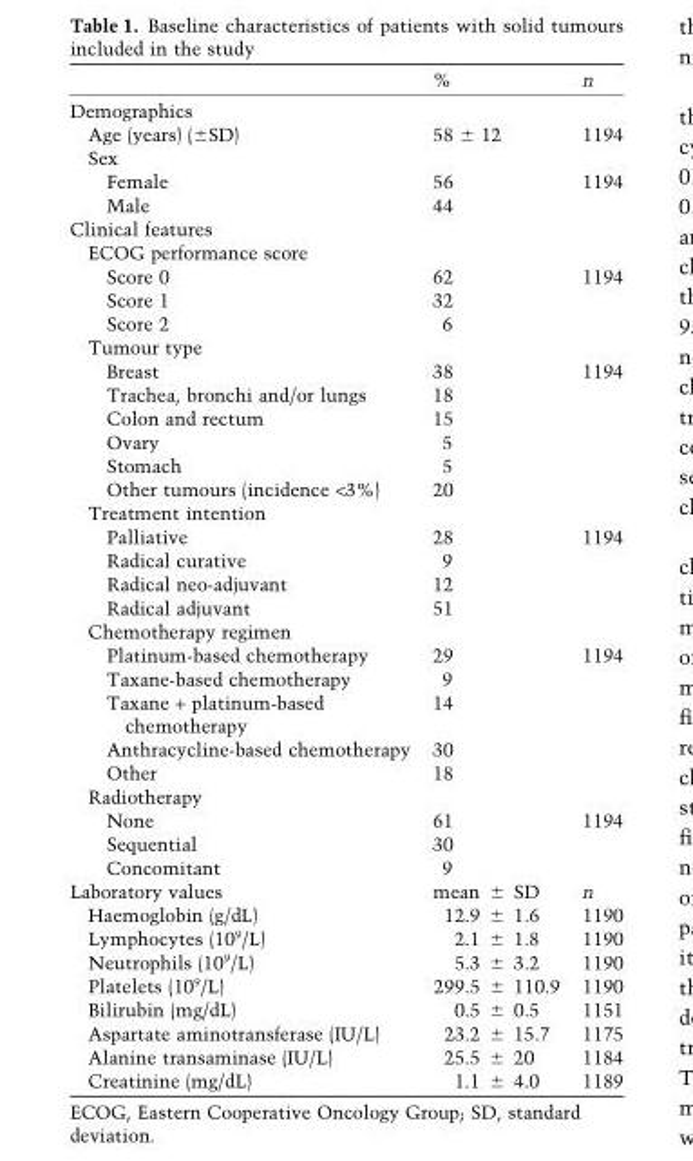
<table><thead><tr><td></td><td>%</td><td>n</td></tr></thead><tbody><tr><td colspan="3">Demographics</td></tr><tr><td>Age (years) (±SD)</td><td>58 ± 12</td><td>1194</td></tr><tr><td colspan="3">Sex</td></tr><tr><td>Female</td><td>56</td><td>1194</td></tr><tr><td>Male</td><td>44</td><td></td></tr><tr><td colspan="3">Clinical features</td></tr><tr><td colspan="3">ECOG performance score</td></tr><tr><td>Score 0</td><td>62</td><td>1194</td></tr><tr><td>Score 1</td><td>32</td><td></td></tr><tr><td>Score 2</td><td>6</td><td></td></tr><tr><td colspan="3">Tumour type</td></tr><tr><td>Breast</td><td>38</td><td>1194</td></tr><tr><td>Trachea, bronchi and/or lungs</td><td>18</td><td></td></tr><tr><td>Colon and rectum</td><td>15</td><td></td></tr><tr><td>Ovary</td><td>5</td><td></td></tr><tr><td>Stomach</td><td>5</td><td></td></tr><tr><td>Other tumours (incidence &lt;3%)</td><td>20</td><td></td></tr><tr><td colspan="3">Treatment intention</td></tr><tr><td>Palliative</td><td>28</td><td>1194</td></tr><tr><td>Radical curative</td><td>9</td><td></td></tr><tr><td>Radical neo-adjuvant</td><td>12</td><td></td></tr><tr><td>Radical adjuvant</td><td>51</td><td></td></tr><tr><td colspan="3">Chemotherapy regimen</td></tr><tr><td>Platinum-based chemotherapy</td><td>29</td><td>1194</td></tr><tr><td>Taxane-based chemotherapy</td><td>9</td><td></td></tr><tr><td>Taxane + platinum-based chemotherapy</td><td>14</td><td></td></tr><tr><td>Anthracycline-based chemotherapy</td><td>30</td><td></td></tr><tr><td>Other</td><td>18</td><td></td></tr><tr><td colspan="3">Radiotherapy</td></tr><tr><td>None</td><td>61</td><td>1194</td></tr><tr><td>Sequential</td><td>30</td><td></td></tr><tr><td>Concomitant</td><td>9</td><td></td></tr><tr><td>Laboratory values</td><td>mean ± SD</td><td>n</td></tr><tr><td>Haemoglobin (g/dL)</td><td>12.9 ± 1.6</td><td>1190</td></tr><tr><td>Lymphocytes (10<sup>9</sup>/L)</td><td>2.1 ± 1.8</td><td>1190</td></tr><tr><td>Neutrophils (10<sup>9</sup>/L)</td><td>5.3 ± 3.2</td><td>1190</td></tr><tr><td>Platelets (10<sup>9</sup>/L)</td><td>299.5 ± 110.9</td><td>1190</td></tr><tr><td>Bilirubin (mg/dL)</td><td>0.5 ± 0.5</td><td>1151</td></tr><tr><td>Aspartate aminotransferase (IU/L)</td><td>23.2 ± 15.7</td><td>1175</td></tr><tr><td>Alanine transaminase (IU/L)</td><td>25.5 ± 20</td><td>1184</td></tr><tr><td>Creatinine (mg/dL)</td><td>1.1 ± 4.0</td><td>1189</td></tr></tbody></table>